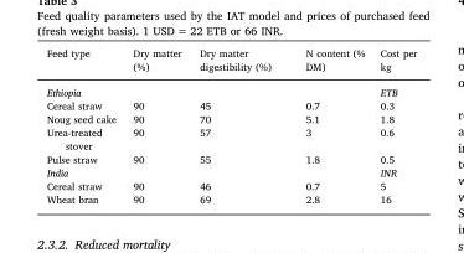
<table><thead><tr><td>Feed type</td><td>Dry matter (%)</td><td>Dry matter digestibility (%)</td><td>N content (% DM)</td><td>Cost per kg</td></tr></thead><tbody><tr><td>Ethiopia</td><td></td><td></td><td></td><td>ETB</td></tr><tr><td>Cereal straw</td><td>90</td><td>45</td><td>0.7</td><td>0.3</td></tr><tr><td>Noug seed cake</td><td>90</td><td>70</td><td>5.1</td><td>1.8</td></tr><tr><td>Urea-treated stover</td><td>90</td><td>57</td><td>3</td><td>0.6</td></tr><tr><td>Pulse straw</td><td>90</td><td>55</td><td>1.8</td><td>0.5</td></tr><tr><td>India</td><td></td><td></td><td></td><td>INR</td></tr><tr><td>Cereal straw</td><td>90</td><td>46</td><td>0.7</td><td>5</td></tr><tr><td>Wheat bran</td><td>90</td><td>69</td><td>2.8</td><td>16</td></tr></tbody></table>